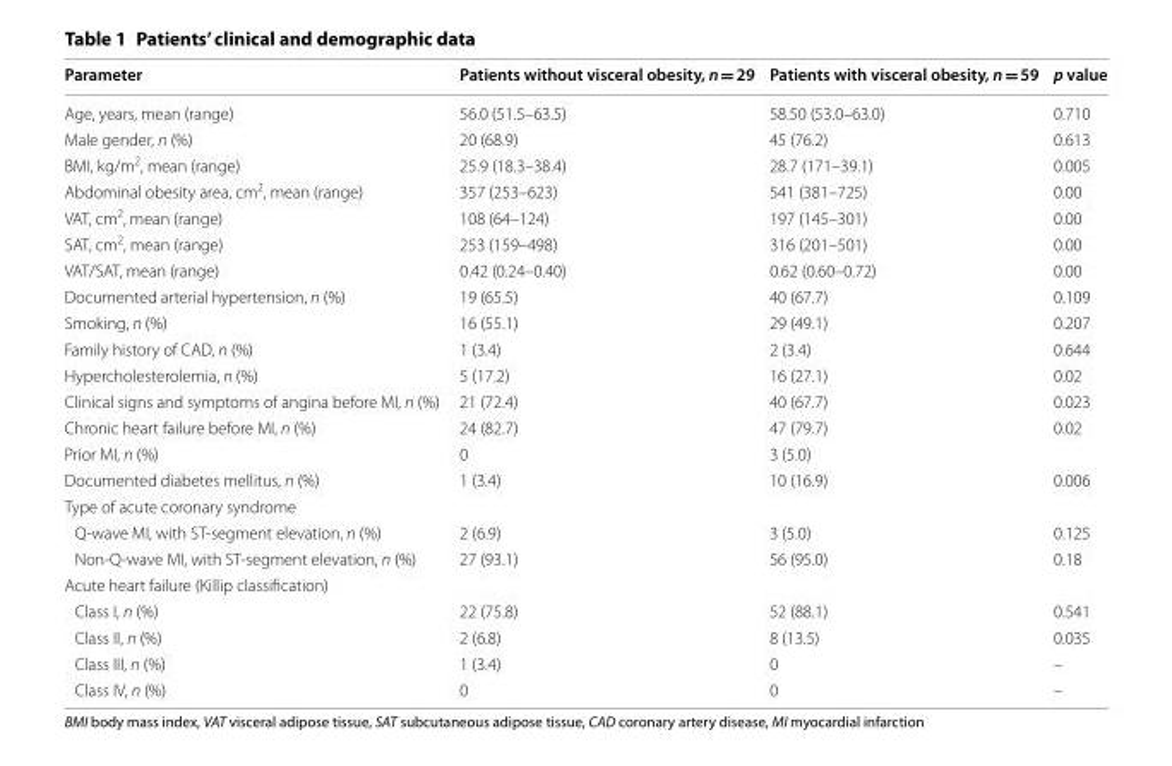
<table><thead><tr><td>Parameter</td><td>Patients without visceral obesity, n = 29</td><td>Patients with visceral obesity, n = 59</td><td>p value</td></tr></thead><tbody><tr><td>Age, years, mean (range)</td><td>56.0 (51.5–63.5)</td><td>58.50 (53.0–63.0)</td><td>0.710</td></tr><tr><td>Male gender, n (%)</td><td>20 (68.9)</td><td>45 (76.2)</td><td>0.613</td></tr><tr><td>BMI, kg/m<sup>2</sup>, mean (range)</td><td>25.9 (18.3–38.4)</td><td>28.7 (171–39.1)</td><td>0.005</td></tr><tr><td>Abdominal obesity area, cm<sup>2</sup>, mean (range)</td><td>357 (253–623)</td><td>541 (381–725)</td><td>0.00</td></tr><tr><td>VAT, cm<sup>2</sup>, mean (range)</td><td>108 (64–124)</td><td>197 (145–301)</td><td>0.00</td></tr><tr><td>SAT, cm<sup>2</sup>, mean (range)</td><td>253 (159–498)</td><td>316 (201–501)</td><td>0.00</td></tr><tr><td>VAT/SAT, mean (range)</td><td>0.42 (0.24–0.40)</td><td>0.62 (0.60–0.72)</td><td>0.00</td></tr><tr><td>Documented arterial hypertension, n (%)</td><td>19 (65.5)</td><td>40 (67.7)</td><td>0.109</td></tr><tr><td>Smoking, n (%)</td><td>16 (55.1)</td><td>29 (49.1)</td><td>0.207</td></tr><tr><td>Family history of CAD, n (%)</td><td>1 (3.4)</td><td>2 (3.4)</td><td>0.644</td></tr><tr><td>Hypercholesterolemia, n (%)</td><td>5 (17.2)</td><td>16 (27.1)</td><td>0.02</td></tr><tr><td>Clinical signs and symptoms of angina before MI, n (%)</td><td>21 (72.4)</td><td>40 (67.7)</td><td>0.023</td></tr><tr><td>Chronic heart failure before MI, n (%)</td><td>24 (82.7)</td><td>47 (79.7)</td><td>0.02</td></tr><tr><td>Prior MI, n (%)</td><td>0</td><td>3 (5.0)</td><td></td></tr><tr><td>Documented diabetes mellitus, n (%)</td><td>1 (3.4)</td><td>10 (16.9)</td><td>0.006</td></tr><tr><td colspan="4">Type of acute coronary syndrome</td></tr><tr><td>Q-wave MI, with ST-segment elevation, n (%)</td><td>2 (6.9)</td><td>3 (5.0)</td><td>0.125</td></tr><tr><td>Non-Q-wave MI, with ST-segment elevation, n (%)</td><td>27 (93.1)</td><td>56 (95.0)</td><td>0.18</td></tr><tr><td colspan="4">Acute heart failure (Killip classification)</td></tr><tr><td>Class I, n (%)</td><td>22 (75.8)</td><td>52 (88.1)</td><td>0.541</td></tr><tr><td>Class II, n (%)</td><td>2 (6.8)</td><td>8 (13.5)</td><td>0.035</td></tr><tr><td>Class III, n (%)</td><td>1 (3.4)</td><td>0</td><td>–</td></tr><tr><td>Class IV, n (%)</td><td>0</td><td>0</td><td>–</td></tr></tbody></table>